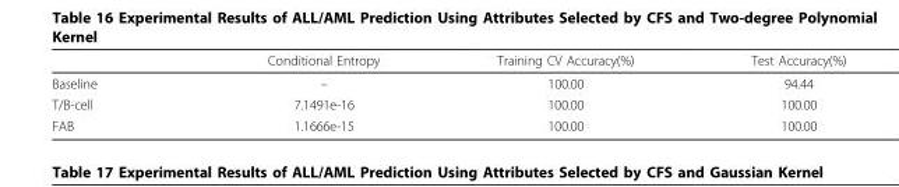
<table><thead><tr><td></td><td>Conditional Entropy</td><td>Training CV Accuracy(%)</td><td>Test Accuracy(%)</td></tr></thead><tbody><tr><td>Baseline</td><td>–</td><td>100.00</td><td>94.44</td></tr><tr><td>T/B-cell</td><td>7.1491e-16</td><td>100.00</td><td>100.00</td></tr><tr><td>FAB</td><td>1.1666e-15</td><td>100.00</td><td>100.00</td></tr></tbody></table>